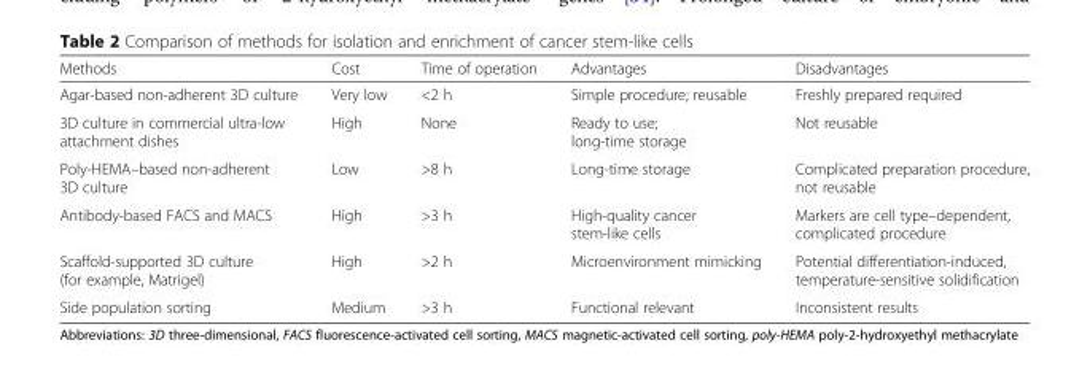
<table><thead><tr><td>Methods</td><td>Cost</td><td>Time of operation</td><td>Advantages</td><td>Disadvantages</td></tr></thead><tbody><tr><td>Agar-based non-adherent 3D culture</td><td>Very low</td><td>&lt;2 h</td><td>Simple procedure; reusable</td><td>Freshly prepared required</td></tr><tr><td>3D culture in commercial ultra-low attachment dishes</td><td>High</td><td>None</td><td>Ready to use; long-time storage</td><td>Not reusable</td></tr><tr><td>Poly-HEMA–based non-adherent 3D culture</td><td>Low</td><td>&gt;8 h</td><td>Long-time storage</td><td>Complicated preparation procedure, not reusable</td></tr><tr><td>Antibody-based FACS and MACS</td><td>High</td><td>&gt;3 h</td><td>High-quality cancer stem-like cells</td><td>Markers are cell type–dependent, complicated procedure</td></tr><tr><td>Scaffold-supported 3D culture (for example, Matrigel)</td><td>High</td><td>&gt;2 h</td><td>Microenvironment mimicking</td><td>Potential differentiation-induced, temperature-sensitive solidification</td></tr><tr><td>Side population sorting</td><td>Medium</td><td>&gt;3 h</td><td>Functional relevant</td><td>Inconsistent results</td></tr></tbody></table>